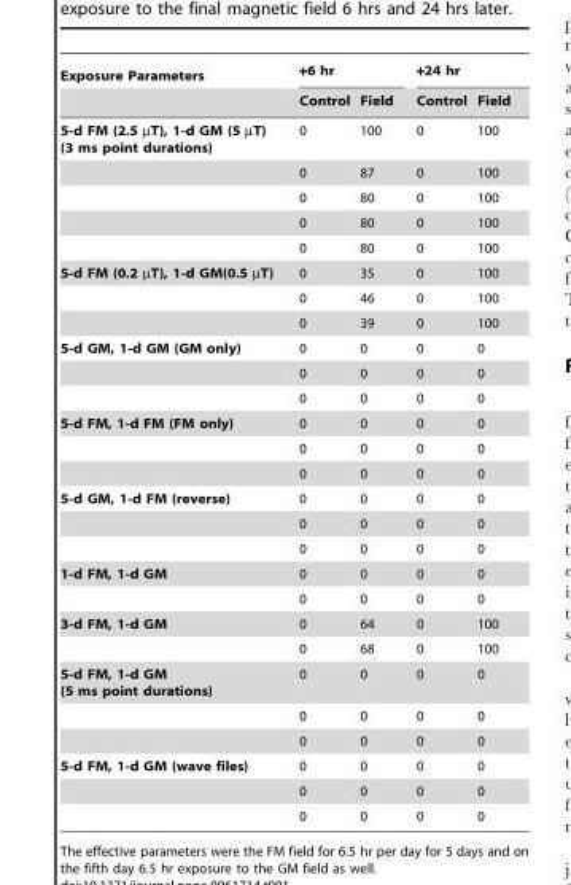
<table><thead><tr><td rowspan="2">Exposure Parameters</td><td colspan="2">+6 hr</td><td colspan="2">+24 hr</td></tr><tr><td>Control</td><td>Field</td><td>Control</td><td>Field</td></tr></thead><tbody><tr><td rowspan="5">5-d FM (2.5 µT), 1-d GM (5 µT) (3 ms point durations)</td><td>0</td><td>100</td><td>0</td><td>100</td></tr><tr><td>0</td><td>87</td><td>0</td><td>100</td></tr><tr><td>0</td><td>80</td><td>0</td><td>100</td></tr><tr><td>0</td><td>80</td><td>0</td><td>100</td></tr><tr><td>0</td><td>80</td><td>0</td><td>100</td></tr><tr><td rowspan="3">5-d FM (0.2 µT), 1-d GM(0.5 µT)</td><td>0</td><td>35</td><td>0</td><td>100</td></tr><tr><td>0</td><td>46</td><td>0</td><td>100</td></tr><tr><td>0</td><td>39</td><td>0</td><td>100</td></tr><tr><td rowspan="3">5-d GM, 1-d GM (GM only)</td><td>0</td><td>0</td><td>0</td><td>0</td></tr><tr><td>0</td><td>0</td><td>0</td><td>0</td></tr><tr><td>0</td><td>0</td><td>0</td><td>0</td></tr><tr><td rowspan="3">5-d FM, 1-d FM (FM only)</td><td>0</td><td>0</td><td>0</td><td>0</td></tr><tr><td>0</td><td>0</td><td>0</td><td>0</td></tr><tr><td>0</td><td>0</td><td>0</td><td>0</td></tr><tr><td rowspan="3">5-d GM, 1-d FM (reverse)</td><td>0</td><td>0</td><td>0</td><td>0</td></tr><tr><td>0</td><td>0</td><td>0</td><td>0</td></tr><tr><td>0</td><td>0</td><td>0</td><td>0</td></tr><tr><td rowspan="2">1-d FM, 1-d GM</td><td>0</td><td>0</td><td>0</td><td>0</td></tr><tr><td>0</td><td>0</td><td>0</td><td>0</td></tr><tr><td rowspan="2">3-d FM, 1-d GM</td><td>0</td><td>64</td><td>0</td><td>100</td></tr><tr><td>0</td><td>68</td><td>0</td><td>100</td></tr><tr><td rowspan="3">5-d FM, 1-d GM (5 ms point durations)</td><td>0</td><td>0</td><td>0</td><td>0</td></tr><tr><td>0</td><td>0</td><td>0</td><td>0</td></tr><tr><td>0</td><td>0</td><td>0</td><td>0</td></tr><tr><td rowspan="3">5-d FM, 1-d GM (wave files)</td><td>0</td><td>0</td><td>0</td><td>0</td></tr><tr><td>0</td><td>0</td><td>0</td><td>0</td></tr><tr><td>0</td><td>0</td><td>0</td><td>0</td></tr></tbody></table>